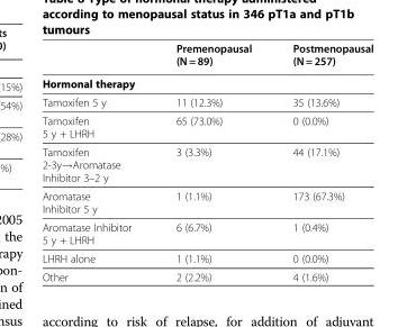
<table><thead><tr><td></td><td>Premenopausal (N = 89)</td><td>Postmenopausal (N = 257)</td></tr></thead><tbody><tr><td colspan="3">Hormonal therapy</td></tr><tr><td>Tamoxifen 5 y</td><td>11 (12.3%)</td><td>35 (13.6%)</td></tr><tr><td>Tamoxifen 5 y + LHRH</td><td>65 (73.0%)</td><td>0 (0.0%)</td></tr><tr><td>Tamoxifen 2-3y→Aromatase Inhibitor 3–2 y</td><td>3 (3.3%)</td><td>44 (17.1%)</td></tr><tr><td>Aromatase Inhibitor 5 y</td><td>1 (1.1%)</td><td>173 (67.3%)</td></tr><tr><td>Aromatase Inhibitor 5 y + LHRH</td><td>6 (6.7%)</td><td>1 (0.4%)</td></tr><tr><td>LHRH alone</td><td>1 (1.1%)</td><td>0 (0.0%)</td></tr><tr><td>Other</td><td>2 (2.2%)</td><td>4 (1.6%)</td></tr></tbody></table>